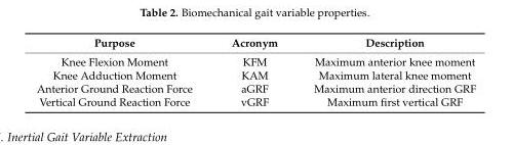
<table><thead><tr><td>Purpose</td><td>Acronym</td><td>Description</td></tr></thead><tbody><tr><td>Knee Flexion Moment</td><td>KFM</td><td>Maximum anterior knee moment</td></tr><tr><td>Knee Adduction Moment</td><td>KAM</td><td>Maximum lateral knee moment</td></tr><tr><td>Anterior Ground Reaction Force</td><td>aGRF</td><td>Maximum anterior direction GRF</td></tr><tr><td>Vertical Ground Reaction Force</td><td>vGRF</td><td>Maximum first vertical GRF</td></tr></tbody></table>